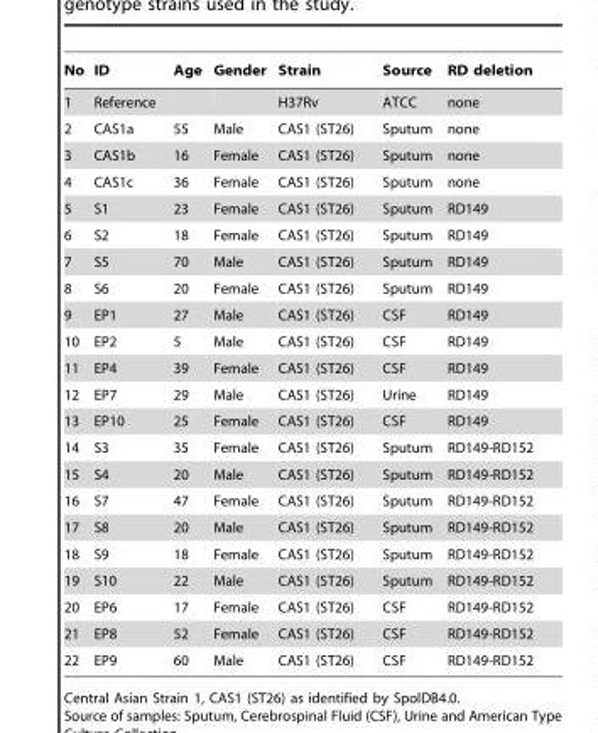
<table><thead><tr><td>No</td><td>ID</td><td>Age</td><td>Gender</td><td>Strain</td><td>Source</td><td>RD deletion</td></tr></thead><tbody><tr><td>1</td><td>Reference</td><td></td><td></td><td>H37Rv</td><td>ATCC</td><td>none</td></tr><tr><td>2</td><td>CAS1a</td><td>55</td><td>Male</td><td>CAS1 (ST26)</td><td>Sputum</td><td>none</td></tr><tr><td>3</td><td>CAS1b</td><td>16</td><td>Female</td><td>CAS1 (ST26)</td><td>Sputum</td><td>none</td></tr><tr><td>4</td><td>CAS1c</td><td>36</td><td>Female</td><td>CAS1 (ST26)</td><td>Sputum</td><td>none</td></tr><tr><td>5</td><td>S1</td><td>23</td><td>Female</td><td>CAS1 (ST26)</td><td>Sputum</td><td>RD149</td></tr><tr><td>6</td><td>S2</td><td>18</td><td>Female</td><td>CAS1 (ST26)</td><td>Sputum</td><td>RD149</td></tr><tr><td>7</td><td>S5</td><td>70</td><td>Male</td><td>CAS1 (ST26)</td><td>Sputum</td><td>RD149</td></tr><tr><td>8</td><td>S6</td><td>20</td><td>Female</td><td>CAS1 (ST26)</td><td>Sputum</td><td>RD149</td></tr><tr><td>9</td><td>EP1</td><td>27</td><td>Male</td><td>CAS1 (ST26)</td><td>CSF</td><td>RD149</td></tr><tr><td>10</td><td>EP2</td><td>5</td><td>Male</td><td>CAS1 (ST26)</td><td>CSF</td><td>RD149</td></tr><tr><td>11</td><td>EP4</td><td>39</td><td>Female</td><td>CAS1 (ST26)</td><td>CSF</td><td>RD149</td></tr><tr><td>12</td><td>EP7</td><td>29</td><td>Male</td><td>CAS1 (ST26)</td><td>Urine</td><td>RD149</td></tr><tr><td>13</td><td>EP10</td><td>25</td><td>Female</td><td>CAS1 (ST26)</td><td>CSF</td><td>RD149</td></tr><tr><td>14</td><td>S3</td><td>35</td><td>Female</td><td>CAS1 (ST26)</td><td>Sputum</td><td>RD149-RD152</td></tr><tr><td>15</td><td>S4</td><td>20</td><td>Male</td><td>CAS1 (ST26)</td><td>Sputum</td><td>RD149-RD152</td></tr><tr><td>16</td><td>S7</td><td>47</td><td>Female</td><td>CAS1 (ST26)</td><td>Sputum</td><td>RD149-RD152</td></tr><tr><td>17</td><td>S8</td><td>20</td><td>Male</td><td>CAS1 (ST26)</td><td>Sputum</td><td>RD149-RD152</td></tr><tr><td>18</td><td>S9</td><td>18</td><td>Female</td><td>CAS1 (ST26)</td><td>Sputum</td><td>RD149-RD152</td></tr><tr><td>19</td><td>S10</td><td>22</td><td>Male</td><td>CAS1 (ST26)</td><td>Sputum</td><td>RD149-RD152</td></tr><tr><td>20</td><td>EP6</td><td>17</td><td>Female</td><td>CAS1 (ST26)</td><td>CSF</td><td>RD149-RD152</td></tr><tr><td>21</td><td>EP8</td><td>52</td><td>Female</td><td>CAS1 (ST26)</td><td>CSF</td><td>RD149-RD152</td></tr><tr><td>22</td><td>EP9</td><td>60</td><td>Male</td><td>CAS1 (ST26)</td><td>CSF</td><td>RD149-RD152</td></tr></tbody></table>